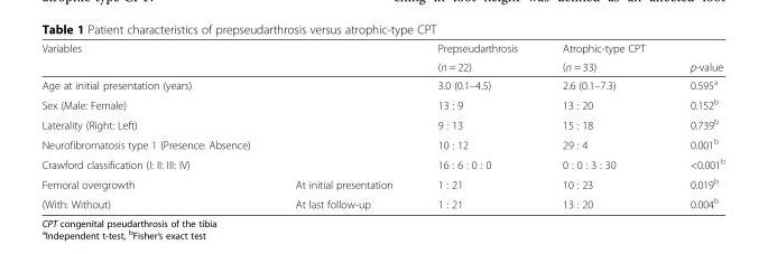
<table><thead><tr><td rowspan="2">Variables</td><td rowspan="2"></td><td rowspan="2">Prepseudarthrosis (n = 22)</td><td rowspan="2">Atrophic-type CPT (n = 33)</td><td rowspan="2">p-value</td></tr><tr></tr></thead><tbody><tr><td>Age at initial presentation (years)</td><td></td><td>3.0 (0.1–4.5)</td><td>2.6 (0.1–7.3)</td><td>0.595<sup>a</sup></td></tr><tr><td>Sex (Male: Female)</td><td></td><td>13 : 9</td><td>13 : 20</td><td>0.152<sup>b</sup></td></tr><tr><td>Laterality (Right: Left)</td><td></td><td>9 : 13</td><td>15 : 18</td><td>0.739<sup>b</sup></td></tr><tr><td>Neurofibromatosis type 1 (Presence: Absence)</td><td></td><td>10 : 12</td><td>29 : 4</td><td>0.001<sup>b</sup></td></tr><tr><td>Crawford classification (I: II: III: IV)</td><td></td><td>16 : 6 : 0 : 0</td><td>0 : 0 : 3 : 30</td><td>&lt;0.001<sup>b</sup></td></tr><tr><td>Femoral overgrowth</td><td>At initial presentation</td><td>1 : 21</td><td>10 : 23</td><td>0.019<sup>b</sup></td></tr><tr><td>(With: Without)</td><td>At last follow-up</td><td>1 : 21</td><td>13 : 20</td><td>0.004<sup>b</sup></td></tr></tbody></table>